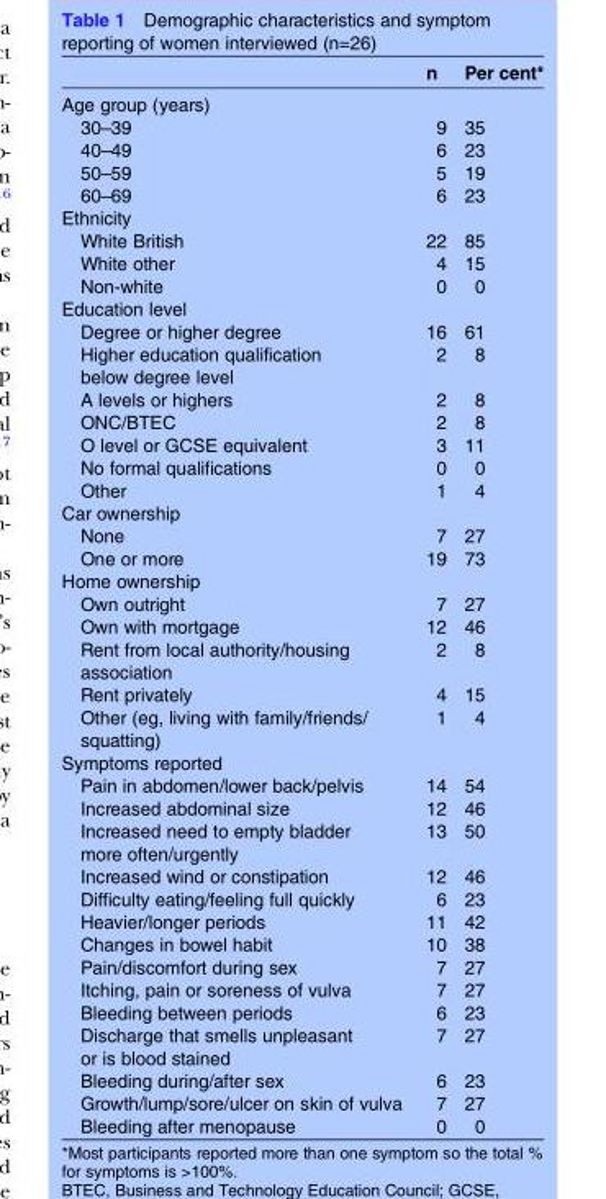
<table><thead><tr><td></td><td>n</td><td>Per cent*</td></tr></thead><tbody><tr><td colspan="3">Age group (years)</td></tr><tr><td>30–39</td><td>9</td><td>35</td></tr><tr><td>40–49</td><td>6</td><td>23</td></tr><tr><td>50–59</td><td>5</td><td>19</td></tr><tr><td>60–69</td><td>6</td><td>23</td></tr><tr><td colspan="3">Ethnicity</td></tr><tr><td>White British</td><td>22</td><td>85</td></tr><tr><td>White other</td><td>4</td><td>15</td></tr><tr><td>Non-white</td><td>0</td><td>0</td></tr><tr><td colspan="3">Education level</td></tr><tr><td>Degree or higher degree</td><td>16</td><td>61</td></tr><tr><td>Higher education qualification below degree level</td><td>2</td><td>8</td></tr><tr><td>A levels or highers</td><td>2</td><td>8</td></tr><tr><td>ONC/BTEC</td><td>2</td><td>8</td></tr><tr><td>O level or GCSE equivalent</td><td>3</td><td>11</td></tr><tr><td>No formal qualifications</td><td>0</td><td>0</td></tr><tr><td>Other</td><td>1</td><td>4</td></tr><tr><td colspan="3">Car ownership</td></tr><tr><td>None</td><td>7</td><td>27</td></tr><tr><td>One or more</td><td>19</td><td>73</td></tr><tr><td colspan="3">Home ownership</td></tr><tr><td>Own outright</td><td>7</td><td>27</td></tr><tr><td>Own with mortgage</td><td>12</td><td>46</td></tr><tr><td>Rent from local authority/housing association</td><td>2</td><td>8</td></tr><tr><td>Rent privately</td><td>4</td><td>15</td></tr><tr><td>Other (eg, living with family/friends/ squatting)</td><td>1</td><td>4</td></tr><tr><td colspan="3">Symptoms reported</td></tr><tr><td>Pain in abdomen/lower back/pelvis</td><td>14</td><td>54</td></tr><tr><td>Increased abdominal size</td><td>12</td><td>46</td></tr><tr><td>Increased need to empty bladder more often/urgently</td><td>13</td><td>50</td></tr><tr><td>Increased wind or constipation</td><td>12</td><td>46</td></tr><tr><td>Difficulty eating/feeling full quickly</td><td>6</td><td>23</td></tr><tr><td>Heavier/longer periods</td><td>11</td><td>42</td></tr><tr><td>Changes in bowel habit</td><td>10</td><td>38</td></tr><tr><td>Pain/discomfort during sex</td><td>7</td><td>27</td></tr><tr><td>Itching, pain or soreness of vulva</td><td>7</td><td>27</td></tr><tr><td>Bleeding between periods</td><td>6</td><td>23</td></tr><tr><td>Discharge that smells unpleasant or is blood stained</td><td>7</td><td>27</td></tr><tr><td>Bleeding during/after sex</td><td>6</td><td>23</td></tr><tr><td>Growth/lump/sore/ulcer on skin of vulva</td><td>7</td><td>27</td></tr><tr><td>Bleeding after menopause</td><td>0</td><td>0</td></tr></tbody></table>